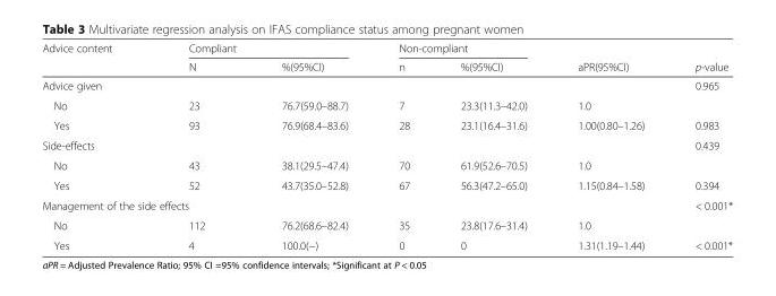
<table><thead><tr><td rowspan="2">Advice content</td><td colspan="2">Compliant</td><td colspan="2">Non-compliant</td><td rowspan="2">aPR(95%CI)</td><td rowspan="2">p-value</td></tr><tr><td>N</td><td>%(95%CI)</td><td>n</td><td>%(95%CI)</td></tr></thead><tbody><tr><td>Advice given</td><td></td><td></td><td></td><td></td><td></td><td>0.965</td></tr><tr><td>No</td><td>23</td><td>76.7(59.0–88.7)</td><td>7</td><td>23.3(11.3–42.0)</td><td>1.0</td><td></td></tr><tr><td>Yes</td><td>93</td><td>76.9(68.4–83.6)</td><td>28</td><td>23.1(16.4–31.6)</td><td>1.00(0.80–1.26)</td><td>0.983</td></tr><tr><td>Side-effects</td><td></td><td></td><td></td><td></td><td></td><td>0.439</td></tr><tr><td>No</td><td>43</td><td>38.1(29.5–47.4)</td><td>70</td><td>61.9(52.6–70.5)</td><td>1.0</td><td></td></tr><tr><td>Yes</td><td>52</td><td>43.7(35.0–52.8)</td><td>67</td><td>56.3(47.2–65.0)</td><td>1.15(0.84–1.58)</td><td>0.394</td></tr><tr><td colspan="2">Management of the side effects</td><td></td><td></td><td></td><td></td><td>&lt; 0.001*</td></tr><tr><td>No</td><td>112</td><td>76.2(68.6–82.4)</td><td>35</td><td>23.8(17.6–31.4)</td><td>1.0</td><td></td></tr><tr><td>Yes</td><td>4</td><td>100.0(−)</td><td>0</td><td>0</td><td>1.31(1.19–1.44)</td><td>&lt; 0.001*</td></tr></tbody></table>